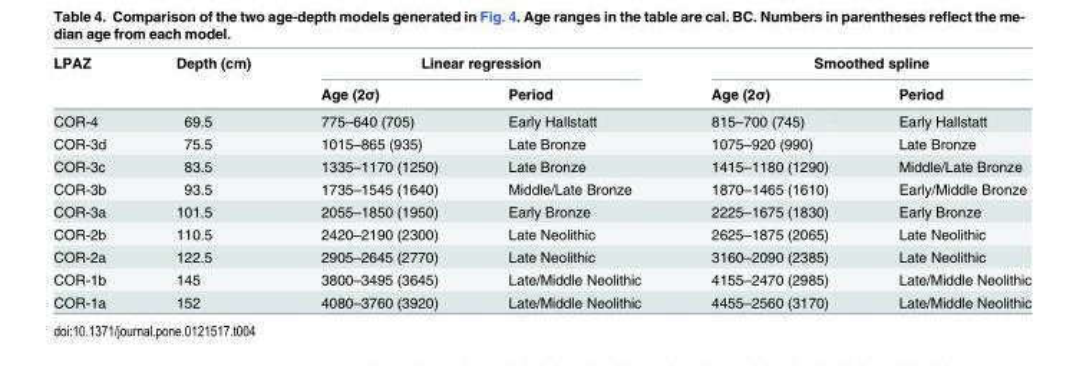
<table><thead><tr><td rowspan="2">LPAZ</td><td rowspan="2">Depth (cm)</td><td colspan="2">Linear regression</td><td colspan="2">Smoothed spline</td></tr><tr><td>Age (2σ)</td><td>Period</td><td>Age (2σ)</td><td>Period</td></tr></thead><tbody><tr><td>COR-4</td><td>69.5</td><td>775–640 (705)</td><td>Early Hallstatt</td><td>815–700 (745)</td><td>Early Hallstatt</td></tr><tr><td>COR-3d</td><td>75.5</td><td>1015–865 (935)</td><td>Late Bronze</td><td>1075–920 (990)</td><td>Late Bronze</td></tr><tr><td>COR-3c</td><td>83.5</td><td>1335–1170 (1250)</td><td>Late Bronze</td><td>1415–1180 (1290)</td><td>Middle/Late Bronze</td></tr><tr><td>COR-3b</td><td>93.5</td><td>1735–1545 (1640)</td><td>Middle/Late Bronze</td><td>1870–1465 (1610)</td><td>Early/Middle Bronze</td></tr><tr><td>COR-3a</td><td>101.5</td><td>2055–1850 (1950)</td><td>Early Bronze</td><td>2225–1675 (1830)</td><td>Early Bronze</td></tr><tr><td>COR-2b</td><td>110.5</td><td>2420–2190 (2300)</td><td>Late Neolithic</td><td>2625–1875 (2065)</td><td>Late Neolithic</td></tr><tr><td>COR-2a</td><td>122.5</td><td>2905–2645 (2770)</td><td>Late Neolithic</td><td>3160–2090 (2385)</td><td>Late Neolithic</td></tr><tr><td>COR-1b</td><td>145</td><td>3800–3495 (3645)</td><td>Late/Middle Neolithic</td><td>4155–2470 (2985)</td><td>Late/Middle Neolithic</td></tr><tr><td>COR-1a</td><td>152</td><td>4080–3760 (3920)</td><td>Late/Middle Neolithic</td><td>4455–2560 (3170)</td><td>Late/Middle Neolithic</td></tr></tbody></table>